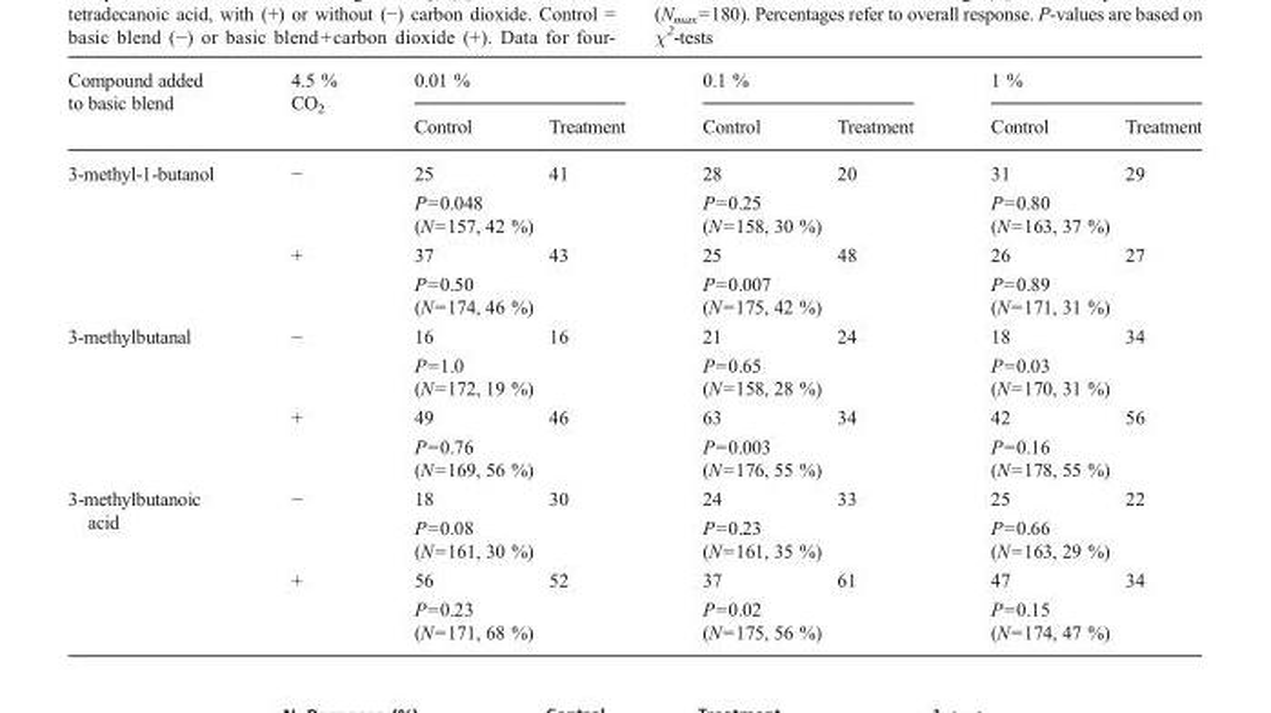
<table><thead><tr><td rowspan="2">Compound added to basic blend</td><td rowspan="2">4.5 % CO<sub>2</sub></td><td colspan="2">0.01 %</td><td colspan="2">0.1 %</td><td colspan="2">1 %</td></tr><tr><td>Control</td><td>Treatment</td><td>Control</td><td>Treatment</td><td>Control</td><td>Treatment</td></tr></thead><tbody><tr><td rowspan="4">3-methyl-1-butanol</td><td rowspan="2">−</td><td>25</td><td>41</td><td>28</td><td>20</td><td>31</td><td>29</td></tr><tr><td colspan="2">P=0.048 (N=157, 42 %)</td><td colspan="2">P=0.25 (N=158, 30 %)</td><td colspan="2">P=0.80 (N=163, 37 %)</td></tr><tr><td rowspan="2">+</td><td>37</td><td>43</td><td>25</td><td>48</td><td>26</td><td>27</td></tr><tr><td colspan="2">P=0.50 (N=174, 46 %)</td><td colspan="2">P=0.007 (N=175, 42 %)</td><td colspan="2">P=0.89 (N=171, 31 %)</td></tr><tr><td rowspan="4">3-methylbutanal</td><td rowspan="2">−</td><td>16</td><td>16</td><td>21</td><td>24</td><td>18</td><td>34</td></tr><tr><td colspan="2">P=1.0 (N=172, 19 %)</td><td colspan="2">P=0.65 (N=158, 28 %)</td><td colspan="2">P=0.03 (N=170, 31 %)</td></tr><tr><td rowspan="2">+</td><td>49</td><td>46</td><td>63</td><td>34</td><td>42</td><td>56</td></tr><tr><td colspan="2">P=0.76 (N=169, 56 %)</td><td colspan="2">P=0.003 (N=176, 55 %)</td><td colspan="2">P=0.16 (N=178, 55 %)</td></tr><tr><td rowspan="4">3-methylbutanoic acid</td><td rowspan="2">−</td><td>18</td><td>30</td><td>24</td><td>33</td><td>25</td><td>22</td></tr><tr><td colspan="2">P=0.08 (N=161, 30 %)</td><td colspan="2">P=0.23 (N=161, 35 %)</td><td colspan="2">P=0.66 (N=163, 29 %)</td></tr><tr><td rowspan="2">+</td><td>56</td><td>52</td><td>37</td><td>61</td><td>47</td><td>34</td></tr><tr><td colspan="2">P=0.23 (N=171, 68 %)</td><td colspan="2">P=0.02 (N=175, 56 %)</td><td colspan="2">P=0.15 (N=174, 47 %)</td></tr></tbody></table>